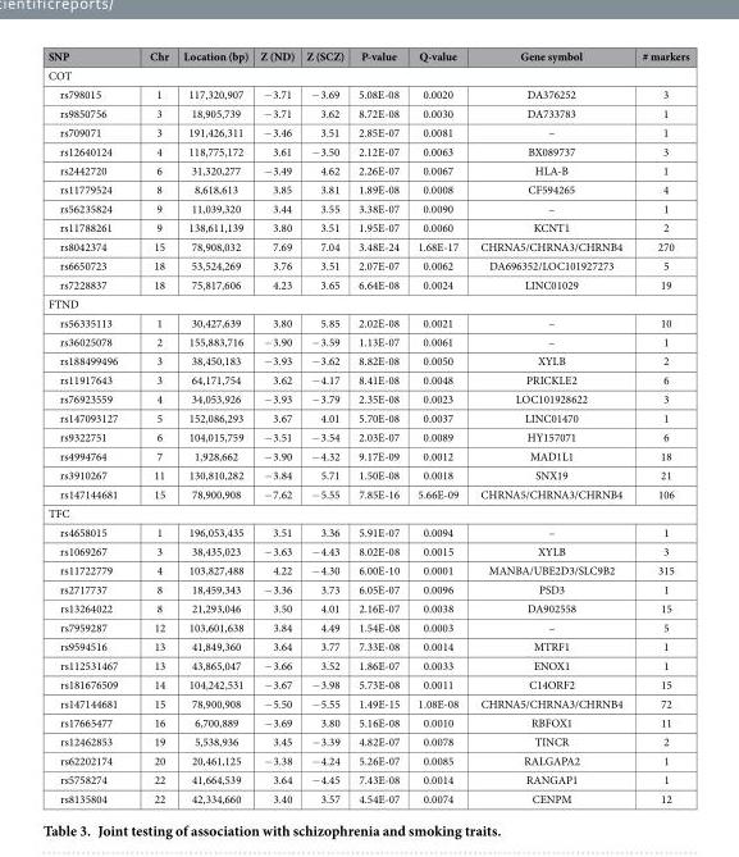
<table><thead><tr><td>SNP</td><td>Chr</td><td>Location (bp)</td><td>Z (ND)</td><td>Z (SCZ)</td><td>P-value</td><td>Q-value</td><td>Gene symbol</td><td># markers</td></tr></thead><tbody><tr><td colspan="9">COT</td></tr><tr><td>rs798015</td><td>1</td><td>117,320,907</td><td>− 3.71</td><td>− 3.69</td><td>5.08E-08</td><td>0.0020</td><td>DA376252</td><td>3</td></tr><tr><td>rs9850756</td><td>3</td><td>18,905,739</td><td>− 3.71</td><td>3.62</td><td>8.72E-08</td><td>0.0030</td><td>DA733783</td><td>1</td></tr><tr><td>rs709071</td><td>3</td><td>191,426,311</td><td>− 3.46</td><td>3.51</td><td>2.85E-07</td><td>0.0081</td><td>–</td><td>1</td></tr><tr><td>rs12640124</td><td>4</td><td>118,775,172</td><td>3.61</td><td>− 3.50</td><td>2.12E-07</td><td>0.0063</td><td>BX089737</td><td>3</td></tr><tr><td>rs2442720</td><td>6</td><td>31,320,277</td><td>− 3.49</td><td>4.62</td><td>2.26E-07</td><td>0.0067</td><td>HLA-B</td><td>1</td></tr><tr><td>rs11779524</td><td>8</td><td>8,618,613</td><td>3.85</td><td>3.81</td><td>1.89E-08</td><td>0.0008</td><td>CF594265</td><td>4</td></tr><tr><td>rs56235824</td><td>9</td><td>11,039,320</td><td>3.44</td><td>3.55</td><td>3.38E-07</td><td>0.0090</td><td>–</td><td>1</td></tr><tr><td>rs11788261</td><td>9</td><td>138,611,139</td><td>3.80</td><td>3.51</td><td>1.95E-07</td><td>0.0060</td><td>KCNT1</td><td>2</td></tr><tr><td>rs8042374</td><td>15</td><td>78,908,032</td><td>7.69</td><td>7.04</td><td>3.48E-24</td><td>1.68E-17</td><td>CHRNA5/CHRNA3/CHRNB4</td><td>270</td></tr><tr><td>rs6650723</td><td>18</td><td>53,524,269</td><td>3.76</td><td>3.51</td><td>2.07E-07</td><td>0.0062</td><td>DA696352/LOC101927273</td><td>5</td></tr><tr><td>rs7228837</td><td>18</td><td>75,817,606</td><td>4.23</td><td>3.65</td><td>6.64E-08</td><td>0.0024</td><td>LINC01029</td><td>19</td></tr><tr><td colspan="9">FTND</td></tr><tr><td>rs56335113</td><td>1</td><td>30,427,639</td><td>3.80</td><td>5.85</td><td>2.02E-08</td><td>0.0021</td><td>–</td><td>10</td></tr><tr><td>rs36025078</td><td>2</td><td>155,883,716</td><td>− 3.90</td><td>− 3.59</td><td>1.13E-07</td><td>0.0061</td><td>–</td><td>1</td></tr><tr><td>rs188499496</td><td>3</td><td>38,450,183</td><td>− 3.93</td><td>− 3.62</td><td>8.82E-08</td><td>0.0050</td><td>XYLB</td><td>2</td></tr><tr><td>rs11917643</td><td>3</td><td>64,171,754</td><td>3.62</td><td>− 4.17</td><td>8.41E-08</td><td>0.0048</td><td>PRICKLE2</td><td>6</td></tr><tr><td>rs76923559</td><td>4</td><td>34,053,926</td><td>− 3.93</td><td>− 3.79</td><td>2.35E-08</td><td>0.0023</td><td>LOC101928622</td><td>3</td></tr><tr><td>rs147093127</td><td>5</td><td>152,086,293</td><td>3.67</td><td>4.01</td><td>5.70E-08</td><td>0.0037</td><td>LINC01470</td><td>1</td></tr><tr><td>rs9322751</td><td>6</td><td>104,015,759</td><td>− 3.51</td><td>− 3.54</td><td>2.03E-07</td><td>0.0089</td><td>HY157071</td><td>6</td></tr><tr><td>rs4994764</td><td>7</td><td>1,928,662</td><td>− 3.90</td><td>− 4.32</td><td>9.17E-09</td><td>0.0012</td><td>MAD1L1</td><td>18</td></tr><tr><td>rs3910267</td><td>11</td><td>130,810,282</td><td>− 3.84</td><td>5.71</td><td>1.50E-08</td><td>0.0018</td><td>SNX19</td><td>21</td></tr><tr><td>rs147144681</td><td>15</td><td>78,900,908</td><td>− 7.62</td><td>− 5.55</td><td>7.85E-16</td><td>5.66E-09</td><td>CHRNA5/CHRNA3/CHRNB4</td><td>106</td></tr><tr><td colspan="9">TFC</td></tr><tr><td>rs4658015</td><td>1</td><td>196,053,435</td><td>3.51</td><td>3.36</td><td>5.91E-07</td><td>0.0094</td><td>–</td><td>1</td></tr><tr><td>rs1069267</td><td>3</td><td>38,435,023</td><td>− 3.63</td><td>− 4.43</td><td>8.02E-08</td><td>0.0015</td><td>XYLB</td><td>3</td></tr><tr><td>rs11722779</td><td>4</td><td>103,827,488</td><td>4.22</td><td>− 4.30</td><td>6.00E-10</td><td>0.0001</td><td>MANBA/UBE2D3/SLC9B2</td><td>315</td></tr><tr><td>rs2717737</td><td>8</td><td>18,459,343</td><td>− 3.36</td><td>3.73</td><td>6.05E-07</td><td>0.0096</td><td>PSD3</td><td>1</td></tr><tr><td>rs13264022</td><td>8</td><td>21,293,046</td><td>3.50</td><td>4.01</td><td>2.16E-07</td><td>0.0038</td><td>DA902558</td><td>15</td></tr><tr><td>rs7959287</td><td>12</td><td>103,601,638</td><td>3.84</td><td>4.49</td><td>1.54E-08</td><td>0.0003</td><td>–</td><td>5</td></tr><tr><td>rs9594516</td><td>13</td><td>41,849,360</td><td>3.64</td><td>3.77</td><td>7.33E-08</td><td>0.0014</td><td>MTRF1</td><td>1</td></tr><tr><td>rs112531467</td><td>13</td><td>43,865,047</td><td>− 3.66</td><td>3.52</td><td>1.86E-07</td><td>0.0033</td><td>ENOX1</td><td>1</td></tr><tr><td>rs181676509</td><td>14</td><td>104,242,531</td><td>− 3.67</td><td>− 3.98</td><td>5.73E-08</td><td>0.0011</td><td>C14ORF2</td><td>15</td></tr><tr><td>rs147144681</td><td>15</td><td>78,900,908</td><td>− 5.50</td><td>− 5.55</td><td>1.49E-15</td><td>1.08E-08</td><td>CHRNA5/CHRNA3/CHRNB4</td><td>72</td></tr><tr><td>rs17665477</td><td>16</td><td>6,700,889</td><td>− 3.69</td><td>3.80</td><td>5.16E-08</td><td>0.0010</td><td>RBFOX1</td><td>11</td></tr><tr><td>rs12462853</td><td>19</td><td>5,538,936</td><td>3.45</td><td>− 3.39</td><td>4.82E-07</td><td>0.0078</td><td>TINCR</td><td>2</td></tr><tr><td>rs62202174</td><td>20</td><td>20,461,125</td><td>− 3.38</td><td>− 4.24</td><td>5.26E-07</td><td>0.0085</td><td>RALGAPA2</td><td>1</td></tr><tr><td>rs5758274</td><td>22</td><td>41,664,539</td><td>3.64</td><td>− 4.45</td><td>7.43E-08</td><td>0.0014</td><td>RANGAP1</td><td>1</td></tr><tr><td>rs8135804</td><td>22</td><td>42,334,660</td><td>3.40</td><td>3.57</td><td>4.54E-07</td><td>0.0074</td><td>CENPM</td><td>12</td></tr></tbody></table>